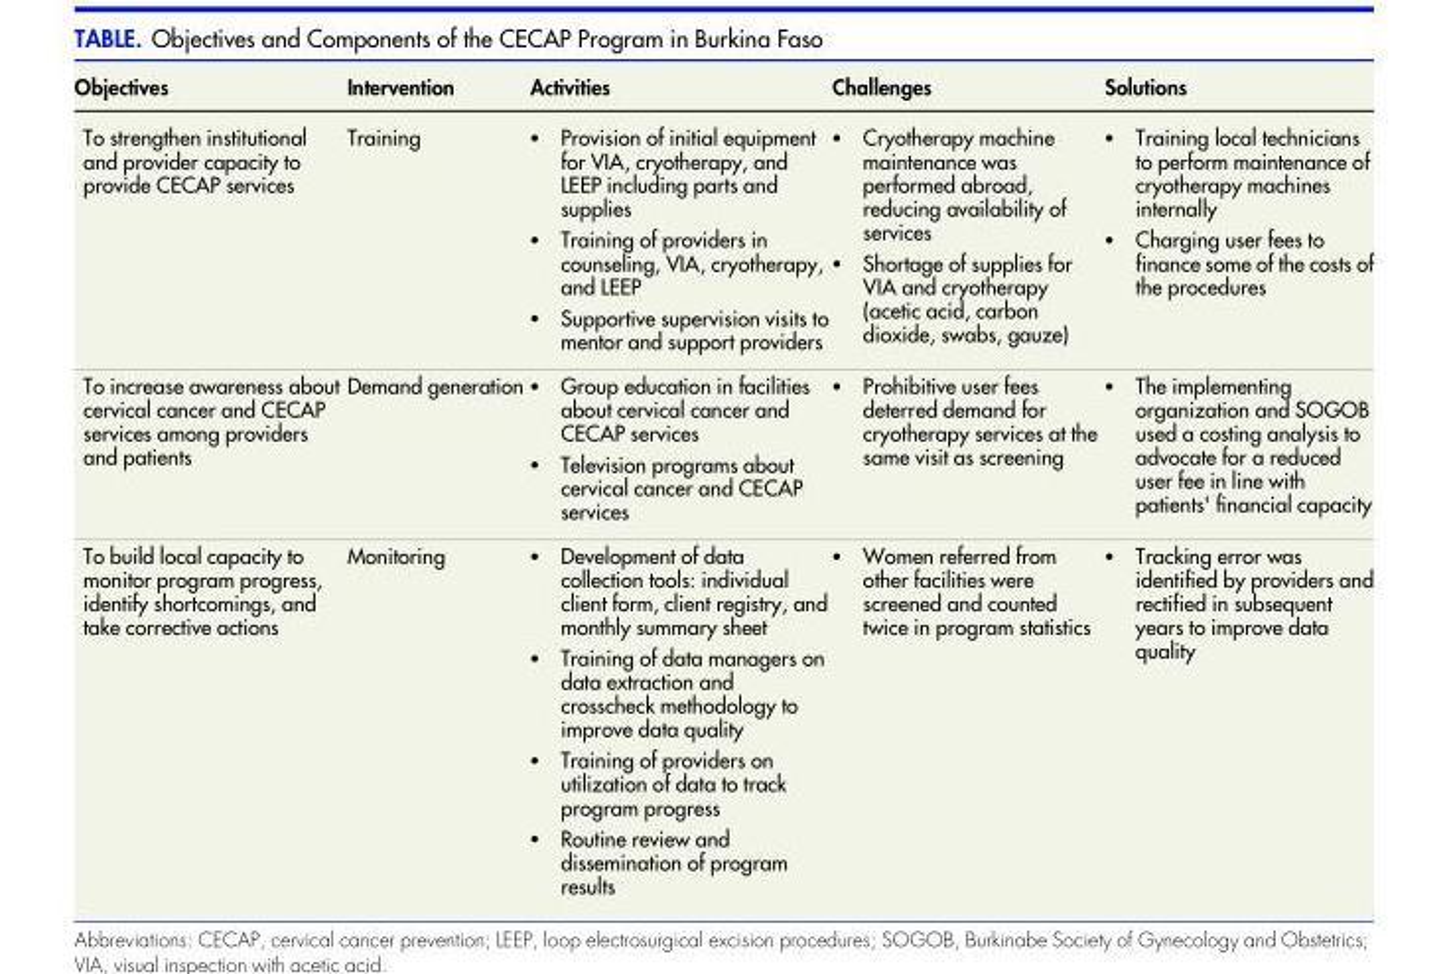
<table><thead><tr><td>Objectives</td><td>Intervention</td><td>Activities</td><td>Challenges</td><td>Solutions</td></tr></thead><tbody><tr><td>To strengthen institutional and provider capacity to provide CECAP services</td><td>Training</td><td>� Provision of initial equipment for VIA, cryotherapy, and LEEP including parts and supplies � Training of providers in counseling, VIA, cryotherapy, and LEEP � Supportive supervision visits to mentor and support providers</td><td>� Cryotherapy machine maintenance was performed abroad, reducing availability of services � Shortage of supplies for VIA and cryotherapy (acetic acid, carbon dioxide, swabs, gauze)</td><td>� Training local technicians to perform maintenance of cryotherapy machines internally � Charging user fees to finance some of the costs of the procedures</td></tr><tr><td>To increase awareness about cervical cancer and CECAP services among providers and patients</td><td>Demand generation</td><td>� Group education in facilities about cervical cancer and CECAP services � Television programs about cervical cancer and CECAP services</td><td>� Prohibitive user fees deterred demand for cryotherapy services at the same visit as screening</td><td>� The implementing organization and SOGOB used a costing analysis to advocate for a reduced user fee in line with patients&#x27; financial capacity</td></tr><tr><td>To build local capacity to monitor program progress, identify shortcomings, and take corrective actions</td><td>Monitoring</td><td>� Development of data collection tools: individual client form, client registry, and monthly summary sheet � Training of data managers on data extraction and crosscheck methodology to improve data quality � Training of providers on utilization of data to track program progress � Routine review and dissemination of program results</td><td>� Women referred from other facilities were screened and counted twice in program statistics</td><td>� Tracking error was identified by providers and rectified in subsequent years to improve data quality</td></tr></tbody></table>